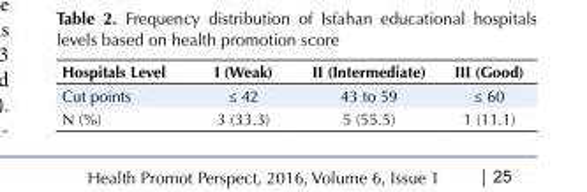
<table><tbody><tr><td>Hospitals Level</td><td>I (Weak)</td><td>II (Intermediate)</td><td>III (Good)</td></tr><tr><td>Cut points</td><td>≤ 42</td><td>43 to 59</td><td>≤ 60</td></tr><tr><td>N (%)</td><td>3 (33.3)</td><td>5 (55.5)</td><td>1 (11.1)</td></tr></tbody></table>